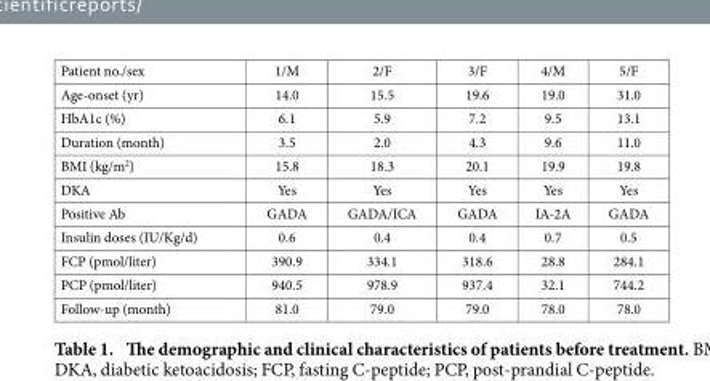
<table><tbody><tr><td>Patient no./sex</td><td>1/M</td><td>2/F</td><td>3/F</td><td>4/M</td><td>5/F</td></tr><tr><td>Age-onset (yr)</td><td>14.0</td><td>15.5</td><td>19.6</td><td>19.0</td><td>31.0</td></tr><tr><td>HbA1c (%)</td><td>6.1</td><td>5.9</td><td>7.2</td><td>9.5</td><td>13.1</td></tr><tr><td>Duration (month)</td><td>3.5</td><td>2.0</td><td>4.3</td><td>9.6</td><td>11.0</td></tr><tr><td>BMI (kg/m<sup>2</sup>)</td><td>15.8</td><td>18.3</td><td>20.1</td><td>19.9</td><td>19.8</td></tr><tr><td>DKA</td><td>Yes</td><td>Yes</td><td>Yes</td><td>Yes</td><td>Yes</td></tr><tr><td>Positive Ab</td><td>GADA</td><td>GADA/ICA</td><td>GADA</td><td>IA-2A</td><td>GADA</td></tr><tr><td>Insulin doses (IU/Kg/d)</td><td>0.6</td><td>0.4</td><td>0.4</td><td>0.7</td><td>0.5</td></tr><tr><td>FCP (pmol/liter)</td><td>390.9</td><td>334.1</td><td>318.6</td><td>28.8</td><td>284.1</td></tr><tr><td>PCP (pmol/liter)</td><td>940.5</td><td>978.9</td><td>937.4</td><td>32.1</td><td>744.2</td></tr><tr><td>Follow-up (month)</td><td>81.0</td><td>79.0</td><td>79.0</td><td>78.0</td><td>78.0</td></tr></tbody></table>